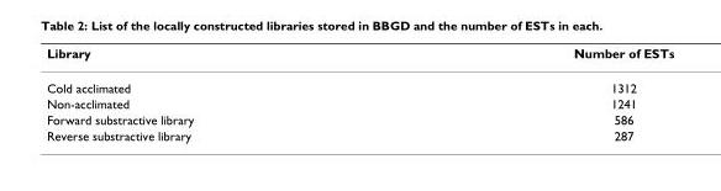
<table><thead><tr><td>Library</td><td>Number of ESTs</td></tr></thead><tbody><tr><td>Cold acclimated</td><td>1312</td></tr><tr><td>Non-acclimated</td><td>1241</td></tr><tr><td>Forward substractive library</td><td>586</td></tr><tr><td>Reverse substractive library</td><td>287</td></tr></tbody></table>